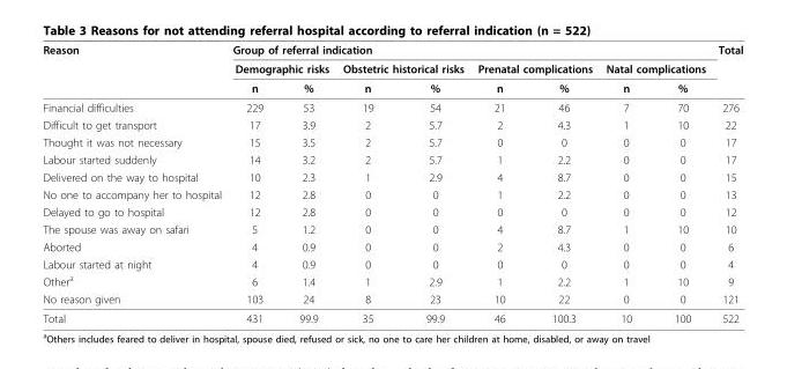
<table><thead><tr><td rowspan="3">Reason</td><td colspan="8">Group of referral indication</td><td rowspan="3">Total</td></tr><tr><td colspan="2">Demographic risks</td><td colspan="2">Obstetric historical risks</td><td colspan="2">Prenatal complications</td><td colspan="2">Natal complications</td></tr><tr><td>n</td><td>%</td><td>n</td><td>%</td><td>n</td><td>%</td><td>n</td><td>%</td></tr></thead><tbody><tr><td>Financial difficulties</td><td>229</td><td>53</td><td>19</td><td>54</td><td>21</td><td>46</td><td>7</td><td>70</td><td>276</td></tr><tr><td>Difficult to get transport</td><td>17</td><td>3.9</td><td>2</td><td>5.7</td><td>2</td><td>4.3</td><td>1</td><td>10</td><td>22</td></tr><tr><td>Thought it was not necessary</td><td>15</td><td>3.5</td><td>2</td><td>5.7</td><td>0</td><td>0</td><td>0</td><td>0</td><td>17</td></tr><tr><td>Labour started suddenly</td><td>14</td><td>3.2</td><td>2</td><td>5.7</td><td>1</td><td>2.2</td><td>0</td><td>0</td><td>17</td></tr><tr><td>Delivered on the way to hospital</td><td>10</td><td>2.3</td><td>1</td><td>2.9</td><td>4</td><td>8.7</td><td>0</td><td>0</td><td>15</td></tr><tr><td>No one to accompany her to hospital</td><td>12</td><td>2.8</td><td>0</td><td>0</td><td>1</td><td>2.2</td><td>0</td><td>0</td><td>13</td></tr><tr><td>Delayed to go to hospital</td><td>12</td><td>2.8</td><td>0</td><td>0</td><td>0</td><td>0</td><td>0</td><td>0</td><td>12</td></tr><tr><td>The spouse was away on safari</td><td>5</td><td>1.2</td><td>0</td><td>0</td><td>4</td><td>8.7</td><td>1</td><td>10</td><td>10</td></tr><tr><td>Aborted</td><td>4</td><td>0.9</td><td>0</td><td>0</td><td>2</td><td>4.3</td><td>0</td><td>0</td><td>6</td></tr><tr><td>Labour started at night</td><td>4</td><td>0.9</td><td>0</td><td>0</td><td>0</td><td>0</td><td>0</td><td>0</td><td>4</td></tr><tr><td>Other<sup>a</sup></td><td>6</td><td>1.4</td><td>1</td><td>2.9</td><td>1</td><td>2.2</td><td>1</td><td>10</td><td>9</td></tr><tr><td>No reason given</td><td>103</td><td>24</td><td>8</td><td>23</td><td>10</td><td>22</td><td>0</td><td>0</td><td>121</td></tr><tr><td>Total</td><td>431</td><td>99.9</td><td>35</td><td>99.9</td><td>46</td><td>100.3</td><td>10</td><td>100</td><td>522</td></tr></tbody></table>